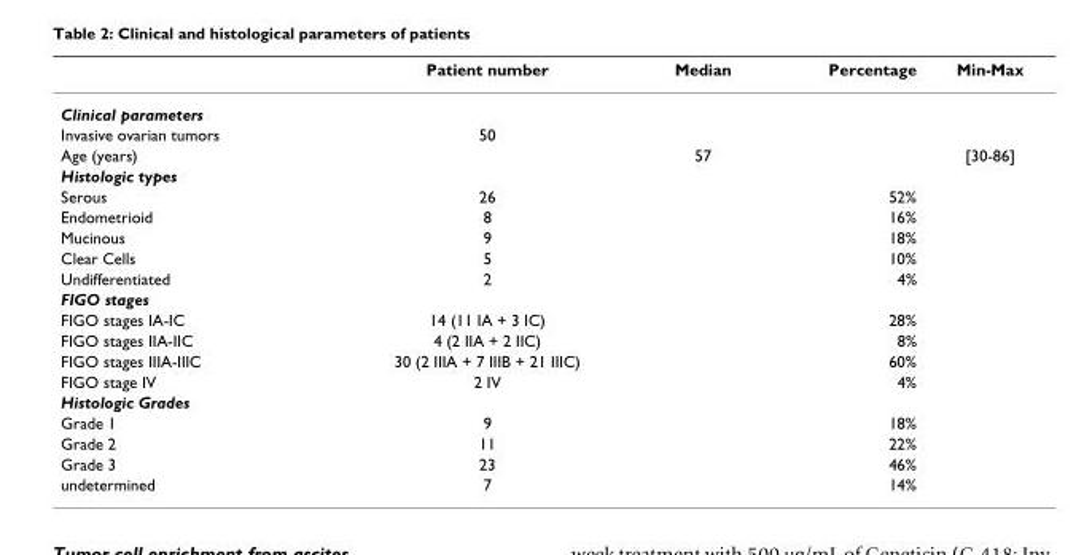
<table><thead><tr><td></td><td>Patient number</td><td>Median</td><td>Percentage</td><td>Min-Max</td></tr></thead><tbody><tr><td colspan="5">Clinical parameters</td></tr><tr><td>Invasive ovarian tumors</td><td>50</td><td></td><td></td><td></td></tr><tr><td>Age (years)</td><td></td><td>57</td><td></td><td>[30-86]</td></tr><tr><td colspan="5">Histologic types</td></tr><tr><td>Serous</td><td>26</td><td></td><td>52%</td><td></td></tr><tr><td>Endometrioid</td><td>8</td><td></td><td>16%</td><td></td></tr><tr><td>Mucinous</td><td>9</td><td></td><td>18%</td><td></td></tr><tr><td>Clear Cells</td><td>5</td><td></td><td>10%</td><td></td></tr><tr><td>Undifferentiated</td><td>2</td><td></td><td>4%</td><td></td></tr><tr><td colspan="5">FIGO stages</td></tr><tr><td>FIGO stages IA-IC</td><td>14 (11 IA + 3 IC)</td><td></td><td>28%</td><td></td></tr><tr><td>FIGO stages IIA-IIC</td><td>4 (2 IIA + 2 IIC)</td><td></td><td>8%</td><td></td></tr><tr><td>FIGO stages IIIA-IIIC</td><td>30 (2 IIIA + 7 IIIB + 21 IIIC)</td><td></td><td>60%</td><td></td></tr><tr><td>FIGO stage IV</td><td>2 IV</td><td></td><td>4%</td><td></td></tr><tr><td colspan="5">Histologic Grades</td></tr><tr><td>Grade 1</td><td>9</td><td></td><td>18%</td><td></td></tr><tr><td>Grade 2</td><td>11</td><td></td><td>22%</td><td></td></tr><tr><td>Grade 3</td><td>23</td><td></td><td>46%</td><td></td></tr><tr><td>undetermined</td><td>7</td><td></td><td>14%</td><td></td></tr></tbody></table>